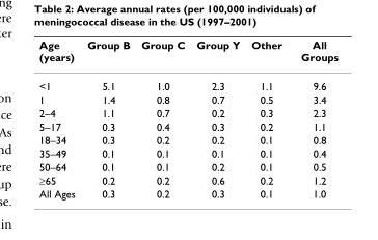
<table><thead><tr><td>Age (years)</td><td>Group B</td><td>Group C</td><td>Group Y</td><td>Other</td><td>All Groups</td></tr></thead><tbody><tr><td>&lt;1</td><td>5.1</td><td>1.0</td><td>2.3</td><td>1.1</td><td>9.6</td></tr><tr><td>1</td><td>1.4</td><td>0.8</td><td>0.7</td><td>0.5</td><td>3.4</td></tr><tr><td>2–4</td><td>1.1</td><td>0.7</td><td>0.2</td><td>0.3</td><td>2.3</td></tr><tr><td>5–17</td><td>0.3</td><td>0.4</td><td>0.3</td><td>0.2</td><td>1.1</td></tr><tr><td>18–34</td><td>0.3</td><td>0.2</td><td>0.2</td><td>0.1</td><td>0.8</td></tr><tr><td>35–49</td><td>0.1</td><td>0.1</td><td>0.1</td><td>0.1</td><td>0.4</td></tr><tr><td>50–64</td><td>0.1</td><td>0.1</td><td>0.2</td><td>0.1</td><td>0.5</td></tr><tr><td>≥65</td><td>0.2</td><td>0.2</td><td>0.6</td><td>0.2</td><td>1.2</td></tr><tr><td>All Ages</td><td>0.3</td><td>0.2</td><td>0.3</td><td>0.1</td><td>1.0</td></tr></tbody></table>